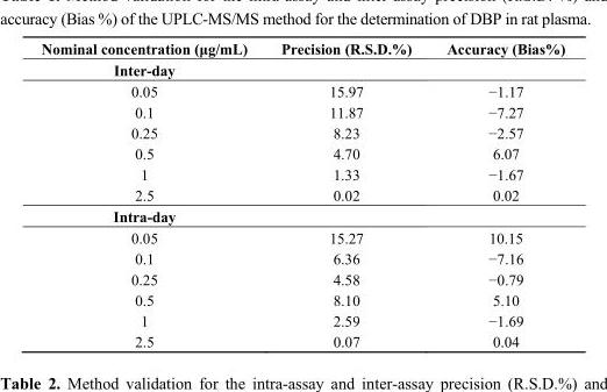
<table><thead><tr><td>Nominal concentration (μg/mL)</td><td>Precision (R.S.D.%)</td><td>Accuracy (Bias%)</td></tr></thead><tbody><tr><td colspan="3">Inter-day</td></tr><tr><td>0.05</td><td>15.97</td><td>−1.17</td></tr><tr><td>0.1</td><td>11.87</td><td>−7.27</td></tr><tr><td>0.25</td><td>8.23</td><td>−2.57</td></tr><tr><td>0.5</td><td>4.70</td><td>6.07</td></tr><tr><td>1</td><td>1.33</td><td>−1.67</td></tr><tr><td>2.5</td><td>0.02</td><td>0.02</td></tr><tr><td colspan="3">Intra-day</td></tr><tr><td>0.05</td><td>15.27</td><td>10.15</td></tr><tr><td>0.1</td><td>6.36</td><td>−7.16</td></tr><tr><td>0.25</td><td>4.58</td><td>−0.79</td></tr><tr><td>0.5</td><td>8.10</td><td>5.10</td></tr><tr><td>1</td><td>2.59</td><td>−1.69</td></tr><tr><td>2.5</td><td>0.07</td><td>0.04</td></tr></tbody></table>